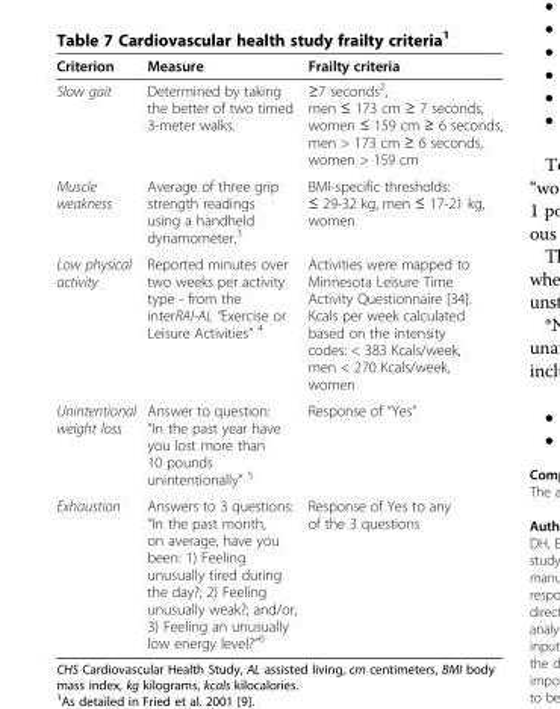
<table><thead><tr><td>Criterion</td><td>Measure</td><td>Frailty criteria</td></tr></thead><tbody><tr><td>Slow gait</td><td>Determined by taking the better of two timed 3-meter walks.</td><td>≥7 seconds<sup>2</sup>, men ≤ 173 cm ≥ 7 seconds, women ≤ 159 cm ≥ 6 seconds, men &gt; 173 cm ≥ 6 seconds, women &gt; 159 cm</td></tr><tr><td>Muscle weakness</td><td>Average of three grip strength readings using a handheld dynamometer.<sup>3</sup></td><td>BMI-specific thresholds: ≤ 29-32 kg, men ≤ 17-21 kg, women</td></tr><tr><td>Low physical activity</td><td>Reported minutes over two weeks per activity type - from the interRAI-AL “Exercise or Leisure Activities” <sup>4</sup></td><td>Activities were mapped to Minnesota Leisure Time Activity Questionnaire [34]. Kcals per week calculated based on the intensity codes: &lt; 383 Kcals/week, men &lt; 270 Kcals/week, women</td></tr><tr><td>Unintentional weight loss</td><td>Answer to question: “In the past year have you lost more than 10 pounds unintentionally” <sup>5</sup></td><td>Response of “Yes”</td></tr><tr><td>Exhaustion</td><td>Answers to 3 questions: “In the past month, on average, have you been: 1) Feeling unusually tired during the day?; 2) Feeling unusually weak?; and/or, 3) Feeling an unusually low energy level?”<sup>6</sup></td><td>Response of Yes to any of the 3 questions</td></tr></tbody></table>